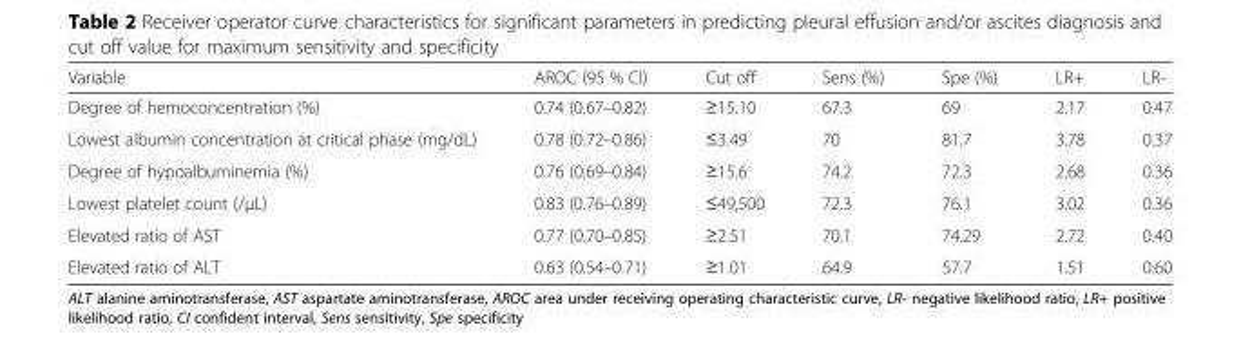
<table><thead><tr><td>Variable</td><td>AROC (95 % CI)</td><td>Cut off</td><td>Sens (%)</td><td>Spe (%)</td><td>LR+</td><td>LR-</td></tr></thead><tbody><tr><td>Degree of hemoconcentration (%)</td><td>0.74 (0.67–0.82)</td><td>≥15.10</td><td>67.3</td><td>69</td><td>2.17</td><td>0.47</td></tr><tr><td>Lowest albumin concentration at critical phase (mg/dL)</td><td>0.78 (0.72–0.86)</td><td>≤3.49</td><td>70</td><td>81.7</td><td>3.78</td><td>0.37</td></tr><tr><td>Degree of hypoalbuminemia (%)</td><td>0.76 (0.69–0.84)</td><td>≥15.6</td><td>74.2</td><td>72.3</td><td>2.68</td><td>0.36</td></tr><tr><td>Lowest platelet count (/μL)</td><td>0.83 (0.76–0.89)</td><td>≤49,500</td><td>72.3</td><td>76.1</td><td>3.02</td><td>0.36</td></tr><tr><td>Elevated ratio of AST</td><td>0.77 (0.70–0.85)</td><td>≥2.51</td><td>70.1</td><td>74.29</td><td>2.72</td><td>0.40</td></tr><tr><td>Elevated ratio of ALT</td><td>0.63 (0.54–0.71)</td><td>≥1.01</td><td>64.9</td><td>57.7</td><td>1.51</td><td>0.60</td></tr></tbody></table>